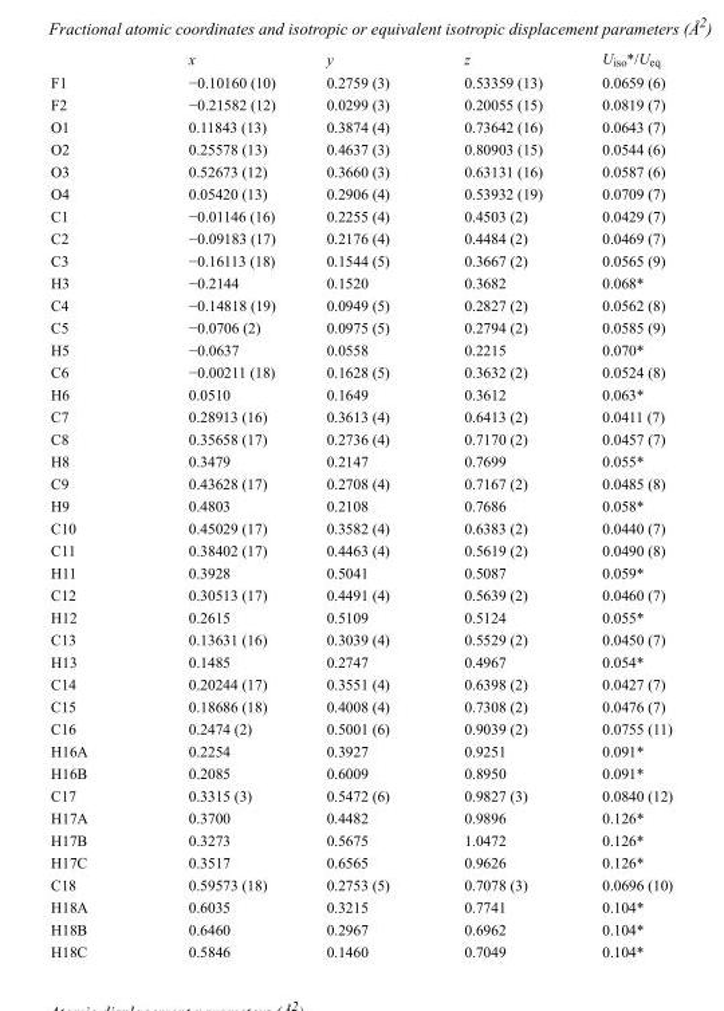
<table><thead><tr><td></td><td>x</td><td>y</td><td>z</td><td>U<sub>iso</sub>*/U<sub>eq</sub></td></tr></thead><tbody><tr><td>F1</td><td>−0.10160 (10)</td><td>0.2759 (3)</td><td>0.53359 (13)</td><td>0.0659 (6)</td></tr><tr><td>F2</td><td>−0.21582 (12)</td><td>0.0299 (3)</td><td>0.20055 (15)</td><td>0.0819 (7)</td></tr><tr><td>O1</td><td>0.11843 (13)</td><td>0.3874 (4)</td><td>0.73642 (16)</td><td>0.0643 (7)</td></tr><tr><td>O2</td><td>0.25578 (13)</td><td>0.4637 (3)</td><td>0.80903 (15)</td><td>0.0544 (6)</td></tr><tr><td>O3</td><td>0.52673 (12)</td><td>0.3660 (3)</td><td>0.63131 (16)</td><td>0.0587 (6)</td></tr><tr><td>O4</td><td>0.05420 (13)</td><td>0.2906 (4)</td><td>0.53932 (19)</td><td>0.0709 (7)</td></tr><tr><td>C1</td><td>−0.01146 (16)</td><td>0.2255 (4)</td><td>0.4503 (2)</td><td>0.0429 (7)</td></tr><tr><td>C2</td><td>−0.09183 (17)</td><td>0.2176 (4)</td><td>0.4484 (2)</td><td>0.0469 (7)</td></tr><tr><td>C3</td><td>−0.16113 (18)</td><td>0.1544 (5)</td><td>0.3667 (2)</td><td>0.0565 (9)</td></tr><tr><td>H3</td><td>−0.2144</td><td>0.1520</td><td>0.3682</td><td>0.068*</td></tr><tr><td>C4</td><td>−0.14818 (19)</td><td>0.0949 (5)</td><td>0.2827 (2)</td><td>0.0562 (8)</td></tr><tr><td>C5</td><td>−0.0706 (2)</td><td>0.0975 (5)</td><td>0.2794 (2)</td><td>0.0585 (9)</td></tr><tr><td>H5</td><td>−0.0637</td><td>0.0558</td><td>0.2215</td><td>0.070*</td></tr><tr><td>C6</td><td>−0.00211 (18)</td><td>0.1628 (5)</td><td>0.3632 (2)</td><td>0.0524 (8)</td></tr><tr><td>H6</td><td>0.0510</td><td>0.1649</td><td>0.3612</td><td>0.063*</td></tr><tr><td>C7</td><td>0.28913 (16)</td><td>0.3613 (4)</td><td>0.6413 (2)</td><td>0.0411 (7)</td></tr><tr><td>C8</td><td>0.35658 (17)</td><td>0.2736 (4)</td><td>0.7170 (2)</td><td>0.0457 (7)</td></tr><tr><td>H8</td><td>0.3479</td><td>0.2147</td><td>0.7699</td><td>0.055*</td></tr><tr><td>C9</td><td>0.43628 (17)</td><td>0.2708 (4)</td><td>0.7167 (2)</td><td>0.0485 (8)</td></tr><tr><td>H9</td><td>0.4803</td><td>0.2108</td><td>0.7686</td><td>0.058*</td></tr><tr><td>C10</td><td>0.45029 (17)</td><td>0.3582 (4)</td><td>0.6383 (2)</td><td>0.0440 (7)</td></tr><tr><td>C11</td><td>0.38402 (17)</td><td>0.4463 (4)</td><td>0.5619 (2)</td><td>0.0490 (8)</td></tr><tr><td>H11</td><td>0.3928</td><td>0.5041</td><td>0.5087</td><td>0.059*</td></tr><tr><td>C12</td><td>0.30513 (17)</td><td>0.4491 (4)</td><td>0.5639 (2)</td><td>0.0460 (7)</td></tr><tr><td>H12</td><td>0.2615</td><td>0.5109</td><td>0.5124</td><td>0.055*</td></tr><tr><td>C13</td><td>0.13631 (16)</td><td>0.3039 (4)</td><td>0.5529 (2)</td><td>0.0450 (7)</td></tr><tr><td>H13</td><td>0.1485</td><td>0.2747</td><td>0.4967</td><td>0.054*</td></tr><tr><td>C14</td><td>0.20244 (17)</td><td>0.3551 (4)</td><td>0.6398 (2)</td><td>0.0427 (7)</td></tr><tr><td>C15</td><td>0.18686 (18)</td><td>0.4008 (4)</td><td>0.7308 (2)</td><td>0.0476 (7)</td></tr><tr><td>C16</td><td>0.2474 (2)</td><td>0.5001 (6)</td><td>0.9039 (2)</td><td>0.0755 (11)</td></tr><tr><td>H16A</td><td>0.2254</td><td>0.3927</td><td>0.9251</td><td>0.091*</td></tr><tr><td>H16B</td><td>0.2085</td><td>0.6009</td><td>0.8950</td><td>0.091*</td></tr><tr><td>C17</td><td>0.3315 (3)</td><td>0.5472 (6)</td><td>0.9827 (3)</td><td>0.0840 (12)</td></tr><tr><td>H17A</td><td>0.3700</td><td>0.4482</td><td>0.9896</td><td>0.126*</td></tr><tr><td>H17B</td><td>0.3273</td><td>0.5675</td><td>1.0472</td><td>0.126*</td></tr><tr><td>H17C</td><td>0.3517</td><td>0.6565</td><td>0.9626</td><td>0.126*</td></tr><tr><td>C18</td><td>0.59573 (18)</td><td>0.2753 (5)</td><td>0.7078 (3)</td><td>0.0696 (10)</td></tr><tr><td>H18A</td><td>0.6035</td><td>0.3215</td><td>0.7741</td><td>0.104*</td></tr><tr><td>H18B</td><td>0.6460</td><td>0.2967</td><td>0.6962</td><td>0.104*</td></tr><tr><td>H18C</td><td>0.5846</td><td>0.1460</td><td>0.7049</td><td>0.104*</td></tr></tbody></table>